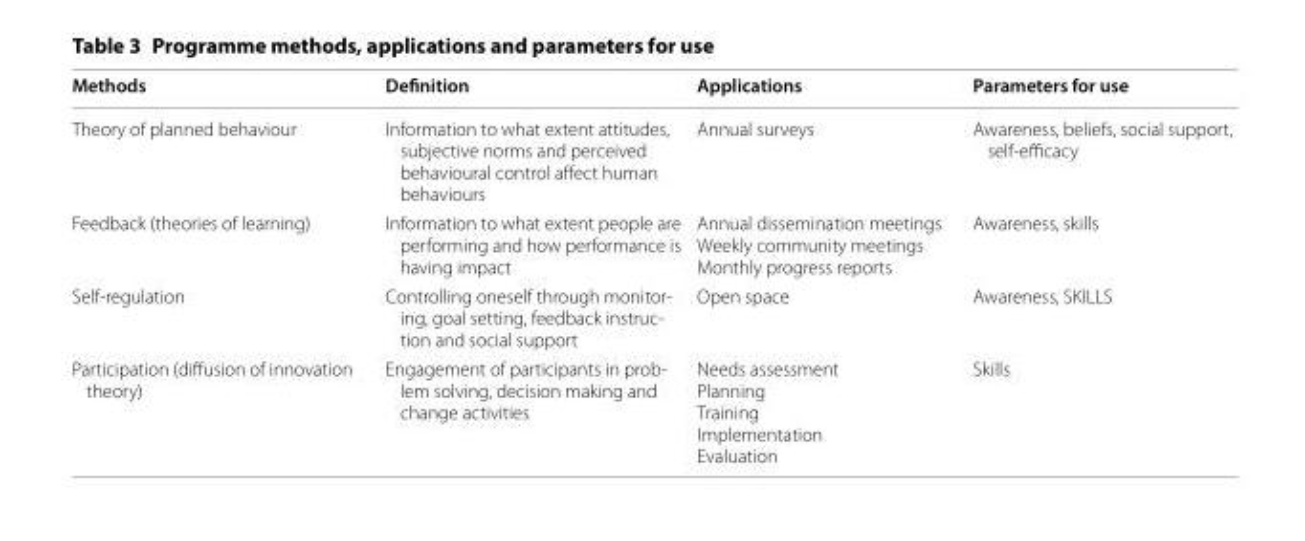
<table><thead><tr><td>Methods</td><td>Definition</td><td>Applications</td><td>Parameters for use</td></tr></thead><tbody><tr><td>Theory of planned behaviour</td><td>Information to what extent attitudes, subjective norms and perceived behavioural control affect human behaviours</td><td>Annual surveys</td><td>Awareness, beliefs, social support, self-efficacy</td></tr><tr><td>Feedback (theories of learning)</td><td>Information to what extent people are performing and how performance is having impact</td><td>Annual dissemination meetings Weekly community meetings Monthly progress reports</td><td>Awareness, skills</td></tr><tr><td>Self-regulation</td><td>Controlling oneself through monitor- ing, goal setting, feedback instruc- tion and social support</td><td>Open space</td><td>Awareness, SKILLS</td></tr><tr><td>Participation (diffusion of innovation theory)</td><td>Engagement of participants in prob- lem solving, decision making and change activities</td><td>Needs assessment Planning Training Implementation Evaluation</td><td>Skills</td></tr></tbody></table>